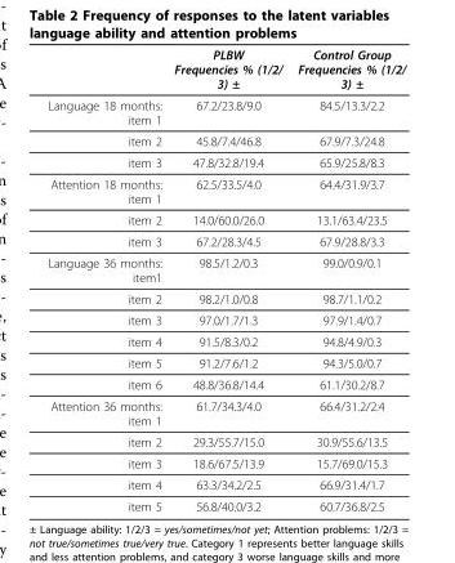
<table><thead><tr><td></td><td>PLBW Frequencies % (1/2/ 3) ±</td><td>Control Group Frequencies % (1/2/ 3) ±</td></tr></thead><tbody><tr><td>Language 18 months: item 1</td><td>67.2/23.8/9.0</td><td>84.5/13.3/2.2</td></tr><tr><td>item 2</td><td>45.8/7.4/46.8</td><td>67.9/7.3/24.8</td></tr><tr><td>item 3</td><td>47.8/32.8/19.4</td><td>65.9/25.8/8.3</td></tr><tr><td>Attention 18 months: item 1</td><td>62.5/33.5/4.0</td><td>64.4/31.9/3.7</td></tr><tr><td>item 2</td><td>14.0/60.0/26.0</td><td>13.1/63.4/23.5</td></tr><tr><td>item 3</td><td>67.2/28.3/4.5</td><td>67.9/28.8/3.3</td></tr><tr><td>Language 36 months: item1</td><td>98.5/1.2/0.3</td><td>99.0/0.9/0.1</td></tr><tr><td>item 2</td><td>98.2/1.0/0.8</td><td>98.7/1.1/0.2</td></tr><tr><td>item 3</td><td>97.0/1.7/1.3</td><td>97.9/1.4/0.7</td></tr><tr><td>item 4</td><td>91.5/8.3/0.2</td><td>94.8/4.9/0.3</td></tr><tr><td>item 5</td><td>91.2/7.6/1.2</td><td>94.3/5.0/0.7</td></tr><tr><td>item 6</td><td>48.8/36.8/14.4</td><td>61.1/30.2/8.7</td></tr><tr><td>Attention 36 months: item 1</td><td>61.7/34.3/4.0</td><td>66.4/31.2/2.4</td></tr><tr><td>item 2</td><td>29.3/55.7/15.0</td><td>30.9/55.6/13.5</td></tr><tr><td>item 3</td><td>18.6/67.5/13.9</td><td>15.7/69.0/15.3</td></tr><tr><td>item 4</td><td>63.3/34.2/2.5</td><td>66.9/31.4/1.7</td></tr><tr><td>item 5</td><td>56.8/40.0/3.2</td><td>60.7/36.8/2.5</td></tr></tbody></table>